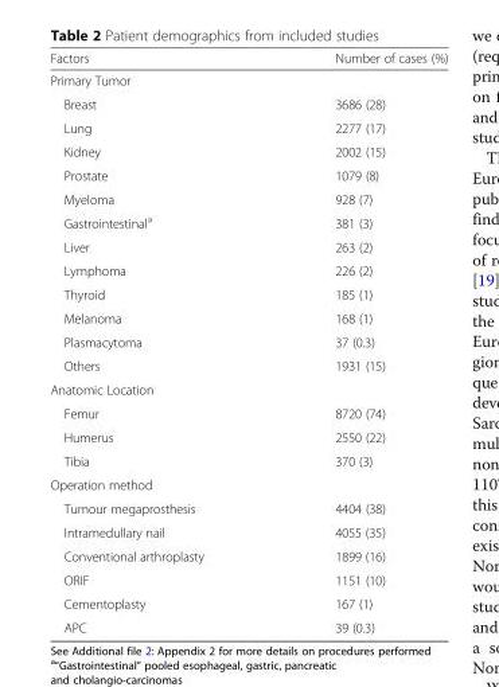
<table><thead><tr><td>Factors</td><td>Number of cases (%)</td></tr></thead><tbody><tr><td colspan="2">Primary Tumor</td></tr><tr><td>Breast</td><td>3686 (28)</td></tr><tr><td>Lung</td><td>2277 (17)</td></tr><tr><td>Kidney</td><td>2002 (15)</td></tr><tr><td>Prostate</td><td>1079 (8)</td></tr><tr><td>Myeloma</td><td>928 (7)</td></tr><tr><td>Gastrointestinal<sup>a</sup></td><td>381 (3)</td></tr><tr><td>Liver</td><td>263 (2)</td></tr><tr><td>Lymphoma</td><td>226 (2)</td></tr><tr><td>Thyroid</td><td>185 (1)</td></tr><tr><td>Melanoma</td><td>168 (1)</td></tr><tr><td>Plasmacytoma</td><td>37 (0.3)</td></tr><tr><td>Others</td><td>1931 (15)</td></tr><tr><td colspan="2">Anatomic Location</td></tr><tr><td>Femur</td><td>8720 (74)</td></tr><tr><td>Humerus</td><td>2550 (22)</td></tr><tr><td>Tibia</td><td>370 (3)</td></tr><tr><td colspan="2">Operation method</td></tr><tr><td>Tumour megaprosthesis</td><td>4404 (38)</td></tr><tr><td>Intramedullary nail</td><td>4055 (35)</td></tr><tr><td>Conventional arthroplasty</td><td>1899 (16)</td></tr><tr><td>ORIF</td><td>1151 (10)</td></tr><tr><td>Cementoplasty</td><td>167 (1)</td></tr><tr><td>APC</td><td>39 (0.3)</td></tr></tbody></table>